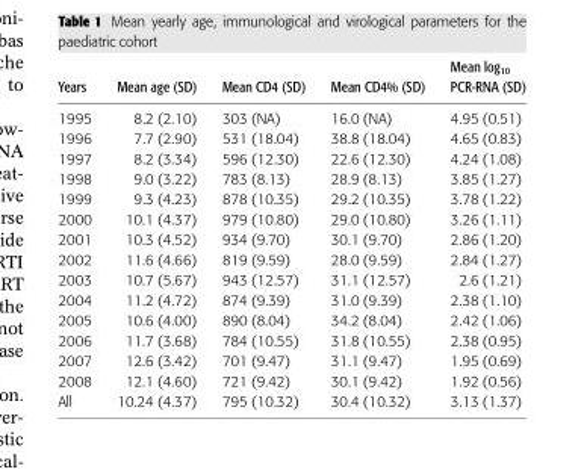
<table><thead><tr><td>Years</td><td>Mean age (SD)</td><td>Mean CD4 (SD)</td><td>Mean CD4% (SD)</td><td>Mean log<sub>10</sub> PCR-RNA (SD)</td></tr></thead><tbody><tr><td>1995</td><td>8.2 (2.10)</td><td>303 (NA)</td><td>16.0 (NA)</td><td>4.95 (0.51)</td></tr><tr><td>1996</td><td>7.7 (2.90)</td><td>531 (18.04)</td><td>38.8 (18.04)</td><td>4.65 (0.83)</td></tr><tr><td>1997</td><td>8.2 (3.34)</td><td>596 (12.30)</td><td>22.6 (12.30)</td><td>4.24 (1.08)</td></tr><tr><td>1998</td><td>9.0 (3.22)</td><td>783 (8.13)</td><td>28.9 (8.13)</td><td>3.85 (1.27)</td></tr><tr><td>1999</td><td>9.3 (4.23)</td><td>878 (10.35)</td><td>29.2 (10.35)</td><td>3.78 (1.22)</td></tr><tr><td>2000</td><td>10.1 (4.37)</td><td>979 (10.80)</td><td>29.0 (10.80)</td><td>3.26 (1.11)</td></tr><tr><td>2001</td><td>10.3 (4.52)</td><td>934 (9.70)</td><td>30.1 (9.70)</td><td>2.86 (1.20)</td></tr><tr><td>2002</td><td>11.6 (4.66)</td><td>819 (9.59)</td><td>28.0 (9.59)</td><td>2.84 (1.27)</td></tr><tr><td>2003</td><td>10.7 (5.67)</td><td>943 (12.57)</td><td>31.1 (12.57)</td><td>2.6 (1.21)</td></tr><tr><td>2004</td><td>11.2 (4.72)</td><td>874 (9.39)</td><td>31.0 (9.39)</td><td>2.38 (1.10)</td></tr><tr><td>2005</td><td>10.6 (4.00)</td><td>890 (8.04)</td><td>34.2 (8.04)</td><td>2.42 (1.06)</td></tr><tr><td>2006</td><td>11.7 (3.68)</td><td>784 (10.55)</td><td>31.8 (10.55)</td><td>2.38 (0.95)</td></tr><tr><td>2007</td><td>12.6 (3.42)</td><td>701 (9.47)</td><td>31.1 (9.47)</td><td>1.95 (0.69)</td></tr><tr><td>2008</td><td>12.1 (4.60)</td><td>721 (9.42)</td><td>30.1 (9.42)</td><td>1.92 (0.56)</td></tr><tr><td>All</td><td>10.24 (4.37)</td><td>795 (10.32)</td><td>30.4 (10.32)</td><td>3.13 (1.37)</td></tr></tbody></table>